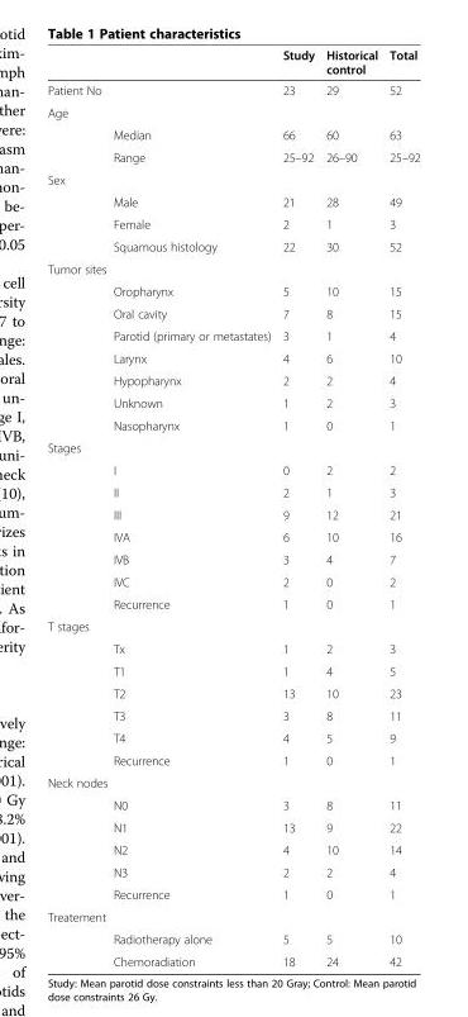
<table><thead><tr><td></td><td></td><td>Study</td><td>Historical control</td><td>Total</td></tr></thead><tbody><tr><td>Patient No</td><td></td><td>23</td><td>29</td><td>52</td></tr><tr><td colspan="5">Age</td></tr><tr><td></td><td>Median</td><td>66</td><td>60</td><td>63</td></tr><tr><td></td><td>Range</td><td>25–92</td><td>26–90</td><td>25–92</td></tr><tr><td colspan="5">Sex</td></tr><tr><td></td><td>Male</td><td>21</td><td>28</td><td>49</td></tr><tr><td></td><td>Female</td><td>2</td><td>1</td><td>3</td></tr><tr><td></td><td>Squamous histology</td><td>22</td><td>30</td><td>52</td></tr><tr><td colspan="5">Tumor sites</td></tr><tr><td></td><td>Oropharynx</td><td>5</td><td>10</td><td>15</td></tr><tr><td></td><td>Oral cavity</td><td>7</td><td>8</td><td>15</td></tr><tr><td></td><td>Parotid (primary or metastates)</td><td>3</td><td>1</td><td>4</td></tr><tr><td></td><td>Larynx</td><td>4</td><td>6</td><td>10</td></tr><tr><td></td><td>Hypopharynx</td><td>2</td><td>2</td><td>4</td></tr><tr><td></td><td>Unknown</td><td>1</td><td>2</td><td>3</td></tr><tr><td></td><td>Nasopharynx</td><td>1</td><td>0</td><td>1</td></tr><tr><td colspan="5">Stages</td></tr><tr><td></td><td>I</td><td>0</td><td>2</td><td>2</td></tr><tr><td></td><td>II</td><td>2</td><td>1</td><td>3</td></tr><tr><td></td><td>III</td><td>9</td><td>12</td><td>21</td></tr><tr><td></td><td>IVA</td><td>6</td><td>10</td><td>16</td></tr><tr><td></td><td>IVB</td><td>3</td><td>4</td><td>7</td></tr><tr><td></td><td>IVC</td><td>2</td><td>0</td><td>2</td></tr><tr><td></td><td>Recurrence</td><td>1</td><td>0</td><td>1</td></tr><tr><td colspan="5">T stages</td></tr><tr><td></td><td>Tx</td><td>1</td><td>2</td><td>3</td></tr><tr><td></td><td>T1</td><td>1</td><td>4</td><td>5</td></tr><tr><td></td><td>T2</td><td>13</td><td>10</td><td>23</td></tr><tr><td></td><td>T3</td><td>3</td><td>8</td><td>11</td></tr><tr><td></td><td>T4</td><td>4</td><td>5</td><td>9</td></tr><tr><td></td><td>Recurrence</td><td>1</td><td>0</td><td>1</td></tr><tr><td colspan="5">Neck nodes</td></tr><tr><td></td><td>N0</td><td>3</td><td>8</td><td>11</td></tr><tr><td></td><td>N1</td><td>13</td><td>9</td><td>22</td></tr><tr><td></td><td>N2</td><td>4</td><td>10</td><td>14</td></tr><tr><td></td><td>N3</td><td>2</td><td>2</td><td>4</td></tr><tr><td></td><td>Recurrence</td><td>1</td><td>0</td><td>1</td></tr><tr><td colspan="5">Treatement</td></tr><tr><td></td><td>Radiotherapy alone</td><td>5</td><td>5</td><td>10</td></tr><tr><td></td><td>Chemoradiation</td><td>18</td><td>24</td><td>42</td></tr></tbody></table>